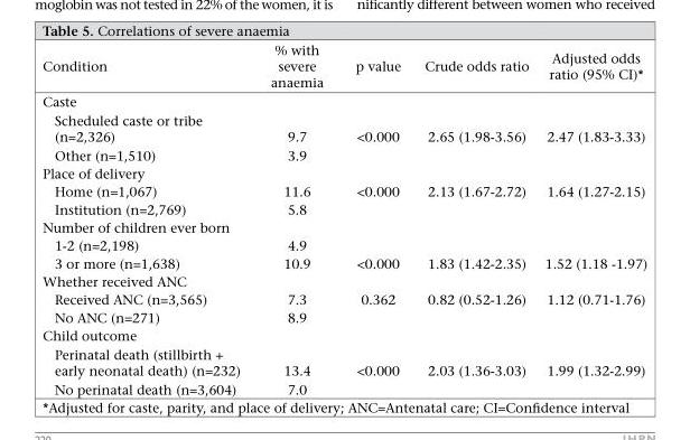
<table><thead><tr><td>Condition</td><td>% with severe anaemia</td><td>p value</td><td>Crude odds ratio</td><td>Adjusted odds ratio (95% CI)*</td></tr></thead><tbody><tr><td colspan="5">Caste</td></tr><tr><td>Scheduled caste or tribe (n=2,326)</td><td>9.7</td><td>&lt;0.000</td><td>2.65 (1.98-3.56)</td><td>2.47 (1.83-3.33)</td></tr><tr><td>Other (n=1,510)</td><td>3.9</td><td></td><td></td><td></td></tr><tr><td colspan="5">Place of delivery</td></tr><tr><td>Home (n=1,067)</td><td>11.6</td><td>&lt;0.000</td><td>2.13 (1.67-2.72)</td><td>1.64 (1.27-2.15)</td></tr><tr><td>Institution (n=2,769)</td><td>5.8</td><td></td><td></td><td></td></tr><tr><td colspan="5">Number of children ever born</td></tr><tr><td>1-2 (n=2,198)</td><td>4.9</td><td></td><td></td><td></td></tr><tr><td>3 or more (n=1,638)</td><td>10.9</td><td>&lt;0.000</td><td>1.83 (1.42-2.35)</td><td>1.52 (1.18 -1.97)</td></tr><tr><td colspan="5">Whether received ANC</td></tr><tr><td>Received ANC (n=3,565)</td><td>7.3</td><td>0.362</td><td>0.82 (0.52-1.26)</td><td>1.12 (0.71-1.76)</td></tr><tr><td>No ANC (n=271)</td><td>8.9</td><td></td><td></td><td></td></tr><tr><td colspan="5">Child outcome</td></tr><tr><td>Perinatal death (stillbirth + early neonatal death) (n=232)</td><td>13.4</td><td>&lt;0.000</td><td>2.03 (1.36-3.03)</td><td>1.99 (1.32-2.99)</td></tr><tr><td>No perinatal death (n=3,604)</td><td>7.0</td><td></td><td></td><td></td></tr></tbody></table>